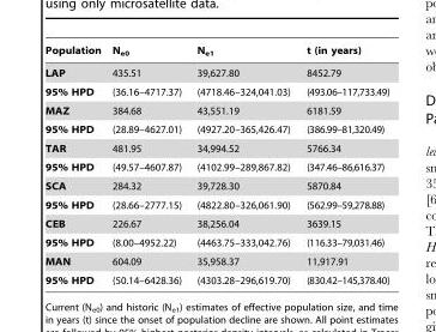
<table><thead><tr><td>Population</td><td>N<sub>e0</sub></td><td>N<sub>e1</sub></td><td>t (in years)</td></tr></thead><tbody><tr><td>LAP</td><td>435.51</td><td>39,627.80</td><td>8452.79</td></tr><tr><td>95% HPD</td><td>(36.16–4717.37)</td><td>(4718.46–324,041.03)</td><td>(493.06–117,733.49)</td></tr><tr><td>MAZ</td><td>384.68</td><td>43,551.19</td><td>6181.59</td></tr><tr><td>95% HPD</td><td>(28.89–4627.01)</td><td>(4927.20–365,426.47)</td><td>(386.99–81,320.49)</td></tr><tr><td>TAR</td><td>481.95</td><td>34,994.52</td><td>5766.34</td></tr><tr><td>95% HPD</td><td>(49.57–4607.87)</td><td>(4102.99–289,867.82)</td><td>(347.46–86,616.37)</td></tr><tr><td>SCA</td><td>284.32</td><td>39,728.30</td><td>5870.84</td></tr><tr><td>95% HPD</td><td>(28.66–2777.15)</td><td>(4822.80–326,061.90)</td><td>(562.99–59,278.88)</td></tr><tr><td>CEB</td><td>226.67</td><td>38,256.04</td><td>3639.15</td></tr><tr><td>95% HPD</td><td>(8.00–4952.22)</td><td>(4463.75–333,042.76)</td><td>(116.33–79,031.46)</td></tr><tr><td>MAN</td><td>604.09</td><td>35,958.37</td><td>11,917.91</td></tr><tr><td>95% HPD</td><td>(50.14–6428.36)</td><td>(4303.28–296,619.70)</td><td>(830.42–145,378.40)</td></tr></tbody></table>